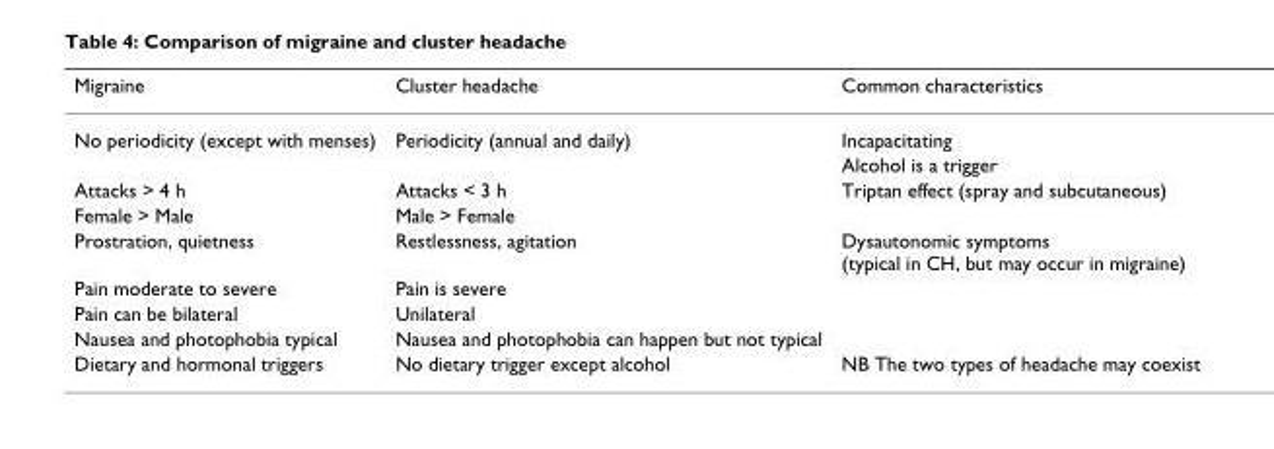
<table><thead><tr><td>Migraine</td><td>Cluster headache</td><td>Common characteristics</td></tr></thead><tbody><tr><td rowspan="2">No periodicity (except with menses)</td><td>Periodicity (annual and daily)</td><td>Incapacitating</td></tr><tr><td></td><td>Alcohol is a trigger</td></tr><tr><td>Attacks &gt; 4 h</td><td>Attacks &lt; 3 h</td><td>Triptan effect (spray and subcutaneous)</td></tr><tr><td>Female &gt; Male</td><td>Male &gt; Female</td><td></td></tr><tr><td>Prostration, quietness</td><td>Restlessness, agitation</td><td>Dysautonomic symptoms (typical in CH, but may occur in migraine)</td></tr><tr><td>Pain moderate to severe</td><td>Pain is severe</td><td></td></tr><tr><td>Pain can be bilateral</td><td>Unilateral</td><td></td></tr><tr><td>Nausea and photophobia typical</td><td>Nausea and photophobia can happen but not typical</td><td></td></tr><tr><td>Dietary and hormonal triggers</td><td>No dietary trigger except alcohol</td><td>NB The two types of headache may coexist</td></tr></tbody></table>